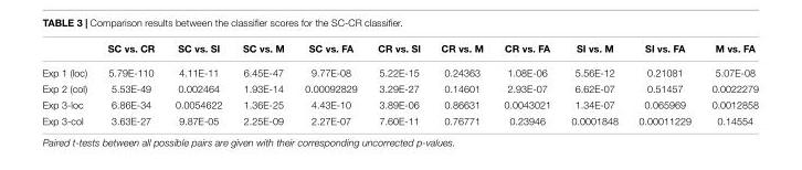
<table><thead><tr><td></td><td>SC vs. CR</td><td>SC vs. SI</td><td>SC vs. M</td><td>SC vs. FA</td><td>CR vs. SI</td><td>CR vs. M</td><td>CR vs. FA</td><td>SI vs. M</td><td>SI vs. FA</td><td>M vs. FA</td></tr></thead><tbody><tr><td>Exp 1 (loc)</td><td>5.79E-110</td><td>4.11E-11</td><td>6.45E-47</td><td>9.77E-08</td><td>5.22E-15</td><td>0.24363</td><td>1.08E-06</td><td>5.56E-12</td><td>0.21081</td><td>5.07E-08</td></tr><tr><td>Exp 2 (col)</td><td>5.53E-49</td><td>0.002464</td><td>1.93E-14</td><td>0.00092829</td><td>3.29E-27</td><td>0.14601</td><td>2.93E-07</td><td>6.62E-07</td><td>0.51457</td><td>0.0022279</td></tr><tr><td>Exp 3-loc</td><td>6.86E-34</td><td>0.0054622</td><td>1.36E-25</td><td>4.43E-10</td><td>3.89E-06</td><td>0.86631</td><td>0.0043021</td><td>1.34E-07</td><td>0.065969</td><td>0.0012858</td></tr><tr><td>Exp 3-col</td><td>3.63E-27</td><td>9.87E-05</td><td>2.25E-09</td><td>2.27E-07</td><td>7.60E-11</td><td>0.76771</td><td>0.23946</td><td>0.0001848</td><td>0.00011229</td><td>0.14554</td></tr></tbody></table>